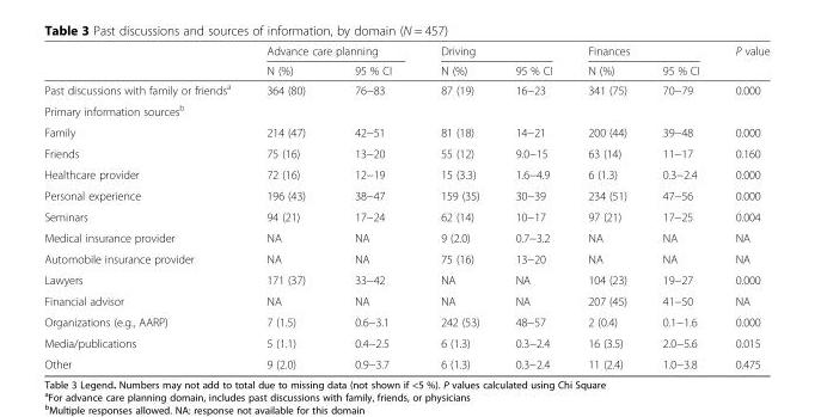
<table><thead><tr><td rowspan="2"></td><td colspan="2">Advance care planning</td><td colspan="2">Driving</td><td colspan="2">Finances</td><td rowspan="2">P value</td></tr><tr><td>N (%)</td><td>95 % CI</td><td>N (%)</td><td>95 % CI</td><td>N (%)</td><td>95 % CI</td></tr></thead><tbody><tr><td>Past discussions with family or friends<sup>a</sup></td><td>364 (80)</td><td>76−83</td><td>87 (19)</td><td>16−23</td><td>341 (75)</td><td>70−79</td><td>0.000</td></tr><tr><td colspan="8">Primary information sources<sup>b</sup></td></tr><tr><td>Family</td><td>214 (47)</td><td>42−51</td><td>81 (18)</td><td>14−21</td><td>200 (44)</td><td>39−48</td><td>0.000</td></tr><tr><td>Friends</td><td>75 (16)</td><td>13−20</td><td>55 (12)</td><td>9.0−15</td><td>63 (14)</td><td>11−17</td><td>0.160</td></tr><tr><td>Healthcare provider</td><td>72 (16)</td><td>12−19</td><td>15 (3.3)</td><td>1.6−4.9</td><td>6 (1.3)</td><td>0.3−2.4</td><td>0.000</td></tr><tr><td>Personal experience</td><td>196 (43)</td><td>38−47</td><td>159 (35)</td><td>30−39</td><td>234 (51)</td><td>47−56</td><td>0.000</td></tr><tr><td>Seminars</td><td>94 (21)</td><td>17−24</td><td>62 (14)</td><td>10−17</td><td>97 (21)</td><td>17−25</td><td>0.004</td></tr><tr><td>Medical insurance provider</td><td>NA</td><td>NA</td><td>9 (2.0)</td><td>0.7−3.2</td><td>NA</td><td>NA</td><td>NA</td></tr><tr><td>Automobile insurance provider</td><td>NA</td><td>NA</td><td>75 (16)</td><td>13−20</td><td>NA</td><td>NA</td><td>NA</td></tr><tr><td>Lawyers</td><td>171 (37)</td><td>33−42</td><td>NA</td><td>NA</td><td>104 (23)</td><td>19−27</td><td>0.000</td></tr><tr><td>Financial advisor</td><td>NA</td><td>NA</td><td>NA</td><td>NA</td><td>207 (45)</td><td>41−50</td><td>NA</td></tr><tr><td>Organizations (e.g., AARP)</td><td>7 (1.5)</td><td>0.6−3.1</td><td>242 (53)</td><td>48−57</td><td>2 (0.4)</td><td>0.1−1.6</td><td>0.000</td></tr><tr><td>Media/publications</td><td>5 (1.1)</td><td>0.4−2.5</td><td>6 (1.3)</td><td>0.3−2.4</td><td>16 (3.5)</td><td>2.0−5.6</td><td>0.015</td></tr><tr><td>Other</td><td>9 (2.0)</td><td>0.9−3.7</td><td>6 (1.3)</td><td>0.3−2.4</td><td>11 (2.4)</td><td>1.0−3.8</td><td>0.475</td></tr></tbody></table>